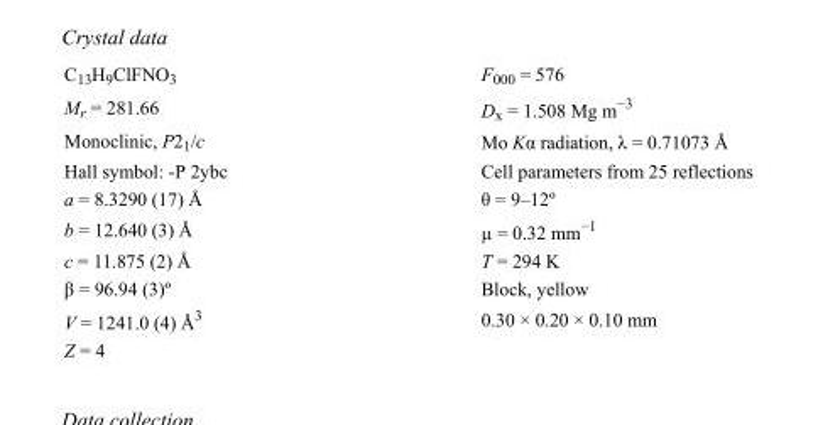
<table><tbody><tr><td>C<sub>13</sub>H<sub>9</sub>ClFNO<sub>3</sub></td><td>F000 = 576</td></tr><tr><td>M<sub>r</sub> = 281.66</td><td>D<sub>x</sub> = 1.508 Mg m<sup>−3</sup></td></tr><tr><td>Monoclinic, P2<sub>1</sub>/c</td><td>Mo Kα radiation, λ = 0.71073 Å</td></tr><tr><td>Hall symbol: -P 2ybc</td><td>Cell parameters from 25 reflections</td></tr><tr><td>a = 8.3290 (17) Å</td><td>θ = 9–12º</td></tr><tr><td>b = 12.640 (3) Å</td><td>µ = 0.32 mm<sup>−1</sup></td></tr><tr><td>c = 11.875 (2) Å</td><td>T = 294 K</td></tr><tr><td>β = 96.94 (3)º</td><td>Block, yellow</td></tr><tr><td>V = 1241.0 (4) Å<sup>3</sup></td><td>0.30 × 0.20 × 0.10 mm</td></tr><tr><td>Z = 4</td><td></td></tr></tbody></table>